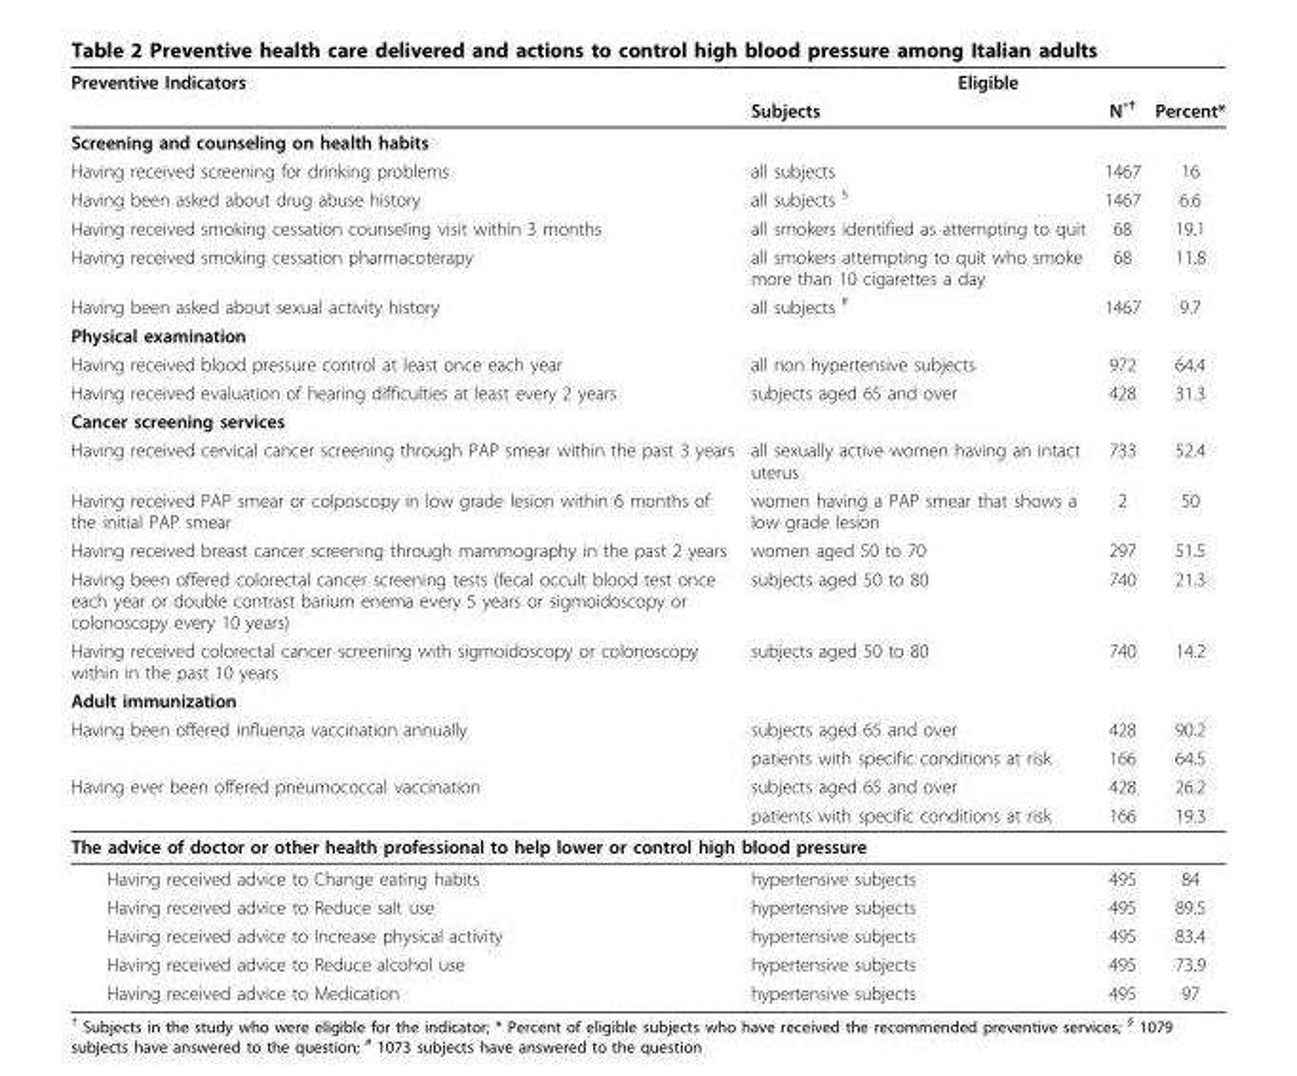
<table><thead><tr><td rowspan="2">Preventive Indicators</td><td colspan="3">Eligible</td></tr><tr><td>Subjects</td><td>N˚<sup>†</sup></td><td>Percent*</td></tr></thead><tbody><tr><td colspan="4">Screening and counseling on health habits</td></tr><tr><td>Having received screening for drinking problems</td><td>all subjects</td><td>1467</td><td>16</td></tr><tr><td>Having been asked about drug abuse history</td><td>all subjects <sup>§</sup></td><td>1467</td><td>6.6</td></tr><tr><td>Having received smoking cessation counseling visit within 3 months</td><td>all smokers identified as attempting to quit</td><td>68</td><td>19.1</td></tr><tr><td>Having received smoking cessation pharmacoterapy</td><td>all smokers attempting to quit who smoke more than 10 cigarettes a day</td><td>68</td><td>11.8</td></tr><tr><td>Having been asked about sexual activity history</td><td>all subjects <sup>#</sup></td><td>1467</td><td>9.7</td></tr><tr><td colspan="4">Physical examination</td></tr><tr><td>Having received blood pressure control at least once each year</td><td>all non hypertensive subjects</td><td>972</td><td>64.4</td></tr><tr><td>Having received evaluation of hearing difficulties at least every 2 years</td><td>subjects aged 65 and over</td><td>428</td><td>31.3</td></tr><tr><td colspan="4">Cancer screening services</td></tr><tr><td>Having received cervical cancer screening through PAP smear within the past 3 years</td><td>all sexually active women having an intact uterus</td><td>733</td><td>52.4</td></tr><tr><td>Having received PAP smear or colposcopy in low grade lesion within 6 months of the initial PAP smear</td><td>women having a PAP smear that shows a low grade lesion</td><td>2</td><td>50</td></tr><tr><td>Having received breast cancer screening through mammography in the past 2 years</td><td>women aged 50 to 70</td><td>297</td><td>51.5</td></tr><tr><td>Having been offered colorectal cancer screening tests (fecal occult blood test once each year or double contrast barium enema every 5 years or sigmoidoscopy or colonoscopy every 10 years)</td><td>subjects aged 50 to 80</td><td>740</td><td>21.3</td></tr><tr><td>Having received colorectal cancer screening with sigmoidoscopy or colonoscopy within in the past 10 years</td><td>subjects aged 50 to 80</td><td>740</td><td>14.2</td></tr><tr><td colspan="4">Adult immunization</td></tr><tr><td rowspan="2">Having been offered influenza vaccination annually</td><td>subjects aged 65 and over</td><td>428</td><td>90.2</td></tr><tr><td>patients with specific conditions at risk</td><td>166</td><td>64.5</td></tr><tr><td rowspan="2">Having ever been offered pneumococcal vaccination</td><td>subjects aged 65 and over</td><td>428</td><td>26.2</td></tr><tr><td>patients with specific conditions at risk</td><td>166</td><td>19.3</td></tr><tr><td colspan="4">The advice of doctor or other health professional to help lower or control high blood pressure</td></tr><tr><td>Having received advice to Change eating habits</td><td>hypertensive subjects</td><td>495</td><td>84</td></tr><tr><td>Having received advice to Reduce salt use</td><td>hypertensive subjects</td><td>495</td><td>89.5</td></tr><tr><td>Having received advice to Increase physical activity</td><td>hypertensive subjects</td><td>495</td><td>83.4</td></tr><tr><td>Having received advice to Reduce alcohol use</td><td>hypertensive subjects</td><td>495</td><td>73.9</td></tr><tr><td>Having received advice to Medication</td><td>hypertensive subjects</td><td>495</td><td>97</td></tr></tbody></table>